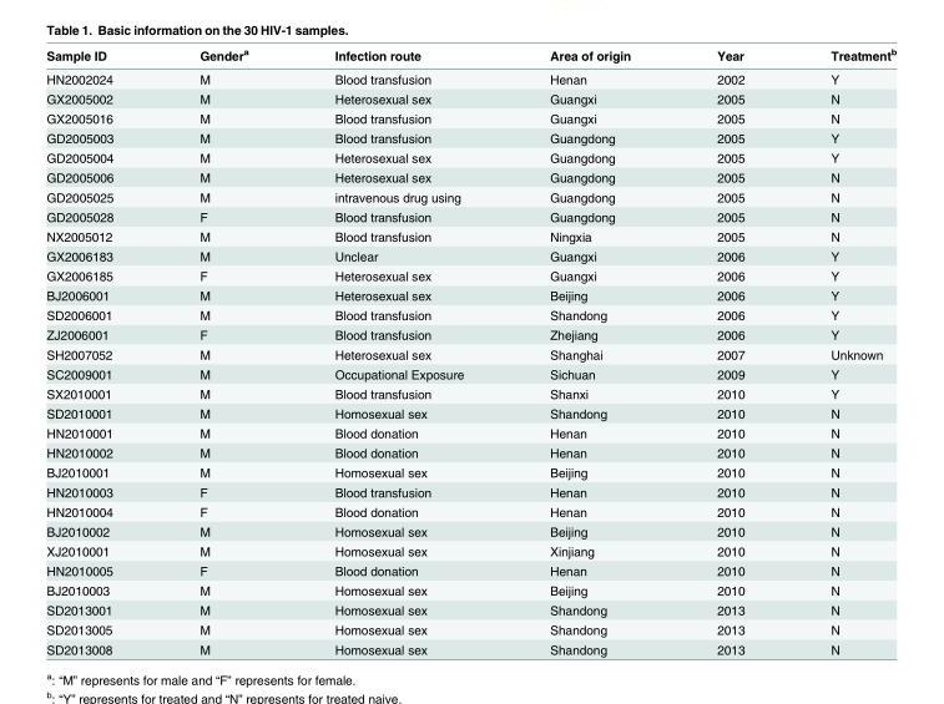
<table><thead><tr><td>Sample ID</td><td>Gender<sup>a</sup></td><td>Infection route</td><td>Area of origin</td><td>Year</td><td>Treatment<sup>b</sup></td></tr></thead><tbody><tr><td>HN2002024</td><td>M</td><td>Blood transfusion</td><td>Henan</td><td>2002</td><td>Y</td></tr><tr><td>GX2005002</td><td>M</td><td>Heterosexual sex</td><td>Guangxi</td><td>2005</td><td>N</td></tr><tr><td>GX2005016</td><td>M</td><td>Blood transfusion</td><td>Guangxi</td><td>2005</td><td>N</td></tr><tr><td>GD2005003</td><td>M</td><td>Blood transfusion</td><td>Guangdong</td><td>2005</td><td>Y</td></tr><tr><td>GD2005004</td><td>M</td><td>Heterosexual sex</td><td>Guangdong</td><td>2005</td><td>Y</td></tr><tr><td>GD2005006</td><td>M</td><td>Heterosexual sex</td><td>Guangdong</td><td>2005</td><td>N</td></tr><tr><td>GD2005025</td><td>M</td><td>intravenous drug using</td><td>Guangdong</td><td>2005</td><td>N</td></tr><tr><td>GD2005028</td><td>F</td><td>Blood transfusion</td><td>Guangdong</td><td>2005</td><td>N</td></tr><tr><td>NX2005012</td><td>M</td><td>Blood transfusion</td><td>Ningxia</td><td>2005</td><td>N</td></tr><tr><td>GX2006183</td><td>M</td><td>Unclear</td><td>Guangxi</td><td>2006</td><td>Y</td></tr><tr><td>GX2006185</td><td>F</td><td>Heterosexual sex</td><td>Guangxi</td><td>2006</td><td>Y</td></tr><tr><td>BJ2006001</td><td>M</td><td>Heterosexual sex</td><td>Beijing</td><td>2006</td><td>Y</td></tr><tr><td>SD2006001</td><td>M</td><td>Blood transfusion</td><td>Shandong</td><td>2006</td><td>Y</td></tr><tr><td>ZJ2006001</td><td>F</td><td>Blood transfusion</td><td>Zhejiang</td><td>2006</td><td>Y</td></tr><tr><td>SH2007052</td><td>M</td><td>Heterosexual sex</td><td>Shanghai</td><td>2007</td><td>Unknown</td></tr><tr><td>SC2009001</td><td>M</td><td>Occupational Exposure</td><td>Sichuan</td><td>2009</td><td>Y</td></tr><tr><td>SX2010001</td><td>M</td><td>Blood transfusion</td><td>Shanxi</td><td>2010</td><td>Y</td></tr><tr><td>SD2010001</td><td>M</td><td>Homosexual sex</td><td>Shandong</td><td>2010</td><td>N</td></tr><tr><td>HN2010001</td><td>M</td><td>Blood donation</td><td>Henan</td><td>2010</td><td>N</td></tr><tr><td>HN2010002</td><td>M</td><td>Blood donation</td><td>Henan</td><td>2010</td><td>N</td></tr><tr><td>BJ2010001</td><td>M</td><td>Homosexual sex</td><td>Beijing</td><td>2010</td><td>N</td></tr><tr><td>HN2010003</td><td>F</td><td>Blood transfusion</td><td>Henan</td><td>2010</td><td>N</td></tr><tr><td>HN2010004</td><td>F</td><td>Blood donation</td><td>Henan</td><td>2010</td><td>N</td></tr><tr><td>BJ2010002</td><td>M</td><td>Homosexual sex</td><td>Beijing</td><td>2010</td><td>N</td></tr><tr><td>XJ2010001</td><td>M</td><td>Homosexual sex</td><td>Xinjiang</td><td>2010</td><td>N</td></tr><tr><td>HN2010005</td><td>F</td><td>Blood donation</td><td>Henan</td><td>2010</td><td>N</td></tr><tr><td>BJ2010003</td><td>M</td><td>Homosexual sex</td><td>Beijing</td><td>2010</td><td>N</td></tr><tr><td>SD2013001</td><td>M</td><td>Homosexual sex</td><td>Shandong</td><td>2013</td><td>N</td></tr><tr><td>SD2013005</td><td>M</td><td>Homosexual sex</td><td>Shandong</td><td>2013</td><td>N</td></tr><tr><td>SD2013008</td><td>M</td><td>Homosexual sex</td><td>Shandong</td><td>2013</td><td>N</td></tr></tbody></table>